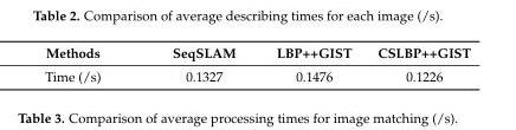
<table><thead><tr><td>Methods</td><td>SeqSLAM</td><td>LBP++GIST</td><td>CSLBP++GIST</td></tr></thead><tbody><tr><td>Time (/s)</td><td>0.1327</td><td>0.1476</td><td>0.1226</td></tr></tbody></table>